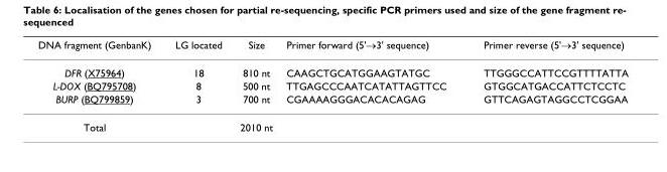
<table><thead><tr><td>DNA fragment (GenbanK)</td><td>LG located</td><td>Size</td><td>Primer forward (5&#x27;→3&#x27; sequence)</td><td>Primer reverse (5&#x27;→3&#x27; sequence)</td></tr></thead><tbody><tr><td>DFR (X75964)</td><td>18</td><td>810 nt</td><td>CAAGCTGCATGGAAGTATGC</td><td>TTGGGCCATTCCGTTTTATTA</td></tr><tr><td>L-DOX (BQ795708)</td><td>8</td><td>500 nt</td><td>TTGAGCCCAATCATATTAGTTCC</td><td>GTGGCATGACCATTCTCCTC</td></tr><tr><td>BURP (BQ799859)</td><td>3</td><td>700 nt</td><td>CGAAAAGGGACACACAGAG</td><td>GTTCAGAGTAGGCCTCGGAA</td></tr><tr><td>Total</td><td></td><td>2010 nt</td><td></td><td></td></tr></tbody></table>